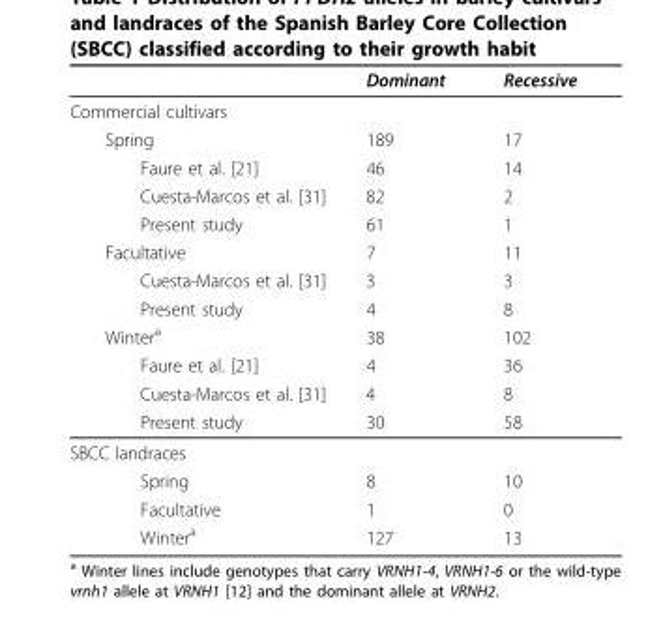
<table><thead><tr><td></td><td>Dominant</td><td>Recessive</td></tr></thead><tbody><tr><td colspan="3">Commercial cultivars</td></tr><tr><td>Spring</td><td>189</td><td>17</td></tr><tr><td>Faure et al. [21]</td><td>46</td><td>14</td></tr><tr><td>Cuesta-Marcos et al. [31]</td><td>82</td><td>2</td></tr><tr><td>Present study</td><td>61</td><td>1</td></tr><tr><td>Facultative</td><td>7</td><td>11</td></tr><tr><td>Cuesta-Marcos et al. [31]</td><td>3</td><td>3</td></tr><tr><td>Present study</td><td>4</td><td>8</td></tr><tr><td>Winter<sup>a</sup></td><td>38</td><td>102</td></tr><tr><td>Faure et al. [21]</td><td>4</td><td>36</td></tr><tr><td>Cuesta-Marcos et al. [31]</td><td>4</td><td>8</td></tr><tr><td>Present study</td><td>30</td><td>58</td></tr><tr><td colspan="3">SBCC landraces</td></tr><tr><td>Spring</td><td>8</td><td>10</td></tr><tr><td>Facultative</td><td>1</td><td>0</td></tr><tr><td>Winter<sup>a</sup></td><td>127</td><td>13</td></tr></tbody></table>